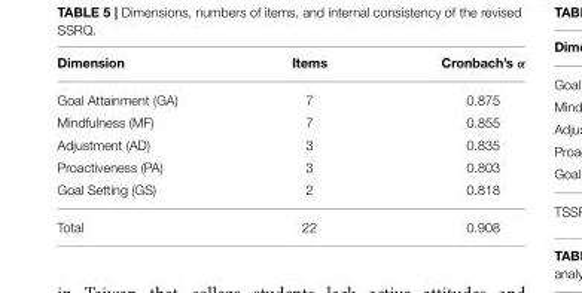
<table><thead><tr><td>Dimension</td><td>Items</td><td>Cronbach’s α</td></tr></thead><tbody><tr><td>Goal Attainment (GA)</td><td>7</td><td>0.875</td></tr><tr><td>Mindfulness (MF)</td><td>7</td><td>0.855</td></tr><tr><td>Adjustment (AD)</td><td>3</td><td>0.835</td></tr><tr><td>Proactiveness (PA)</td><td>3</td><td>0.803</td></tr><tr><td>Goal Setting (GS)</td><td>2</td><td>0.818</td></tr><tr><td>Total</td><td>22</td><td>0.908</td></tr></tbody></table>